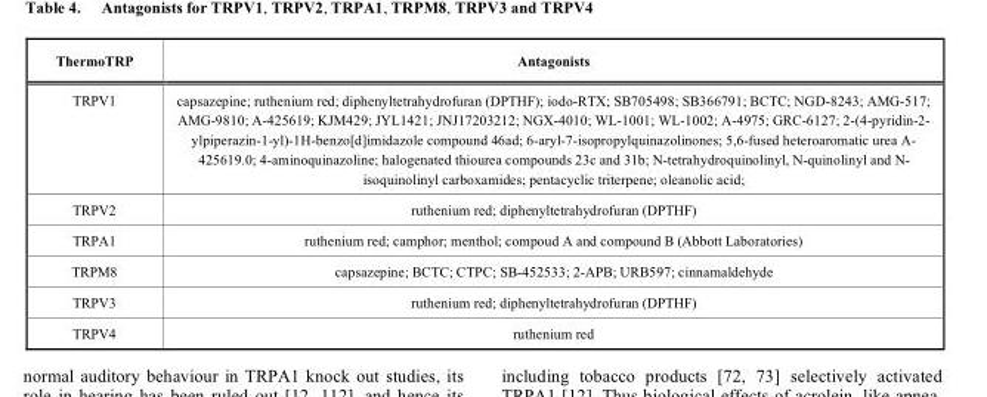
<table><thead><tr><td>ThermoTRP</td><td>Antagonists</td></tr></thead><tbody><tr><td>TRPV1</td><td>capsazepine; ruthenium red; diphenyltetrahydrofuran (DPTHF); iodo-RTX; SB705498; SB366791; BCTC; NGD-8243; AMG-517; AMG-9810; A-425619; KJM429; JYL1421; JNJ17203212; NGX-4010; WL-1001; WL-1002; A-4975; GRC-6127; 2-(4-pyridin-2- ylpiperazin-1-yl)-1H-benzo[d]imidazole compound 46ad; 6-aryl-7-isopropylquinazolinones; 5,6-fused heteroaromatic urea A- 425619.0; 4-aminoquinazoline; halogenated thiourea compounds 23c and 31b; N-tetrahydroquinolinyl, N-quinolinyl and N- isoquinolinyl carboxamides; pentacyclic triterpene; oleanolic acid;</td></tr><tr><td>TRPV2</td><td>ruthenium red; diphenyltetrahydrofuran (DPTHF)</td></tr><tr><td>TRPA1</td><td>ruthenium red; camphor; menthol; compoud A and compound B (Abbott Laboratories)</td></tr><tr><td>TRPM8</td><td>capsazepine; BCTC; CTPC; SB-452533; 2-APB; URB597; cinnamaldehyde</td></tr><tr><td>TRPV3</td><td>ruthenium red; diphenyltetrahydrofuran (DPTHF)</td></tr><tr><td>TRPV4</td><td>ruthenium red</td></tr></tbody></table>